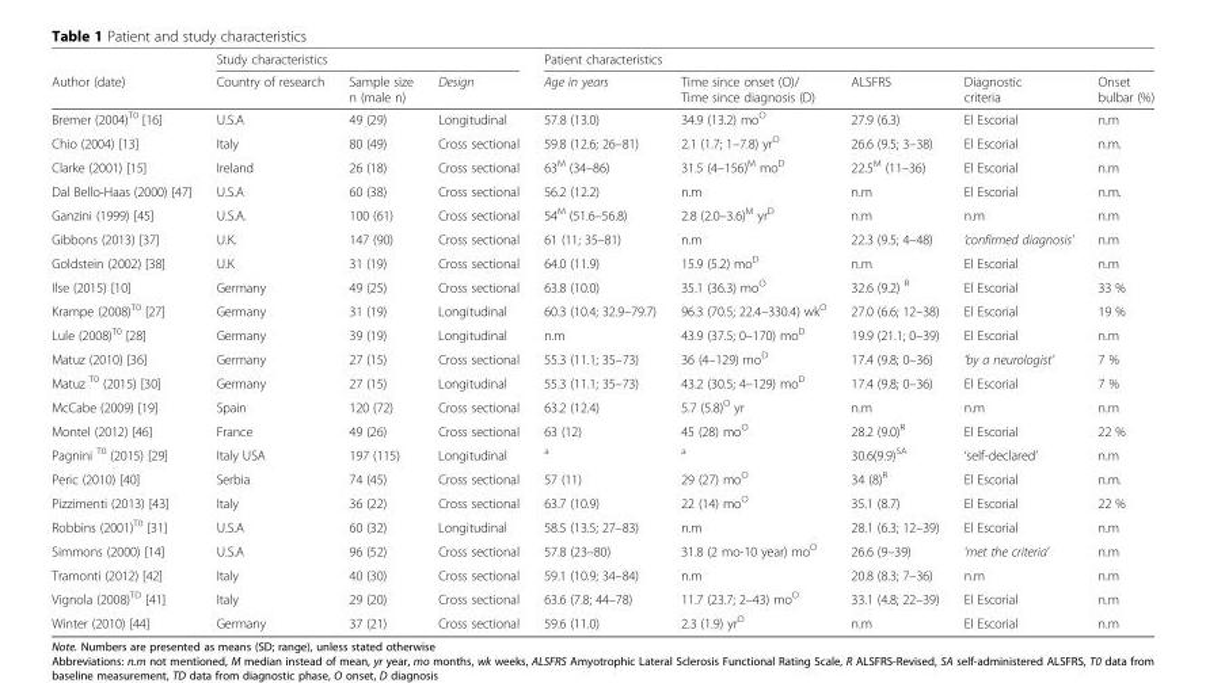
<table><thead><tr><td rowspan="2">Author (date)</td><td colspan="3">Study characteristics</td><td colspan="5">Patient characteristics</td></tr><tr><td>Country of research</td><td>Sample size n (male n)</td><td>Design</td><td>Age in years</td><td>Time since onset (O)/ Time since diagnosis (D)</td><td>ALSFRS</td><td>Diagnostic criteria</td><td>Onset bulbar (%)</td></tr></thead><tbody><tr><td>Bremer (2004)<sup>T0</sup> [16]</td><td>U.S.A</td><td>49 (29)</td><td>Longitudinal</td><td>57.8 (13.0)</td><td>34.9 (13.2) mo<sup>O</sup></td><td>27.9 (6.3)</td><td>El Escorial</td><td>n.m</td></tr><tr><td>Chio (2004) [13]</td><td>Italy</td><td>80 (49)</td><td>Cross sectional</td><td>59.8 (12.6; 26–81)</td><td>2.1 (1.7; 1–7.8) yr<sup>O</sup></td><td>26.6 (9.5; 3–38)</td><td>El Escorial</td><td>n.m.</td></tr><tr><td>Clarke (2001) [15]</td><td>Ireland</td><td>26 (18)</td><td>Cross sectional</td><td>63<sup>M</sup> (34–86)</td><td>31.5 (4–156)<sup>M</sup> mo<sup>D</sup></td><td>22.5<sup>M</sup> (11–36)</td><td>El Escorial</td><td>n.m</td></tr><tr><td>Dal Bello-Haas (2000) [47]</td><td>U.S.A</td><td>60 (38)</td><td>Cross sectional</td><td>56.2 (12.2)</td><td>n.m</td><td>n.m</td><td>El Escorial</td><td>n.m.</td></tr><tr><td>Ganzini (1999) [45]</td><td>U.S.A.</td><td>100 (61)</td><td>Cross sectional</td><td>54<sup>M</sup> (51.6–56.8)</td><td>2.8 (2.0–3.6)<sup>M</sup> yr<sup>D</sup></td><td>n.m</td><td>n.m</td><td>n.m</td></tr><tr><td>Gibbons (2013) [37]</td><td>U.K.</td><td>147 (90)</td><td>Cross sectional</td><td>61 (11; 35–81)</td><td>n.m</td><td>22.3 (9.5; 4–48)</td><td>‘confirmed diagnosis’</td><td>n.m</td></tr><tr><td>Goldstein (2002) [38]</td><td>U.K</td><td>31 (19)</td><td>Cross sectional</td><td>64.0 (11.9)</td><td>15.9 (5.2) mo<sup>D</sup></td><td>n.m</td><td>El Escorial</td><td>n.m</td></tr><tr><td>Ilse (2015) [10]</td><td>Germany</td><td>49 (25)</td><td>Cross sectional</td><td>63.8 (10.0)</td><td>35.1 (36.3) mo<sup>O</sup></td><td>32.6 (9.2) <sup>R</sup></td><td>El Escorial</td><td>33 %</td></tr><tr><td>Krampe (2008)<sup>T0</sup> [27]</td><td>Germany</td><td>31 (19)</td><td>Longitudinal</td><td>60.3 (10.4; 32.9–79.7)</td><td>96.3 (70.5; 22.4–330.4) wk<sup>O</sup></td><td>27.0 (6.6; 12–38)</td><td>El Escorial</td><td>19 %</td></tr><tr><td>Lule (2008)<sup>T0</sup> [28]</td><td>Germany</td><td>39 (19)</td><td>Longitudinal</td><td>n.m</td><td>43.9 (37.5; 0–170) mo<sup>D</sup></td><td>19.9 (21.1; 0–39)</td><td>El Escorial</td><td>n.m</td></tr><tr><td>Matuz (2010) [36]</td><td>Germany</td><td>27 (15)</td><td>Cross sectional</td><td>55.3 (11.1; 35–73)</td><td>36 (4–129) mo<sup>D</sup></td><td>17.4 (9.8; 0–36)</td><td>‘by a neurologist’</td><td>7 %</td></tr><tr><td>Matuz <sup>T0</sup> (2015) [30]</td><td>Germany</td><td>27 (15)</td><td>Longitudinal</td><td>55.3 (11.1; 35–73)</td><td>43.2 (30.5; 4–129) mo<sup>D</sup></td><td>17.4 (9.8; 0–36)</td><td>El Escorial</td><td>7 %</td></tr><tr><td>McCabe (2009) [19]</td><td>Spain</td><td>120 (72)</td><td>Cross sectional</td><td>63.2 (12.4)</td><td>5.7 (5.8)<sup>O</sup> yr</td><td>n.m</td><td>n.m</td><td>n.m</td></tr><tr><td>Montel (2012) [46]</td><td>France</td><td>49 (26)</td><td>Cross sectional</td><td>63 (12)</td><td>45 (28) mo<sup>O</sup></td><td>28.2 (9.0)<sup>R</sup></td><td>El Escorial</td><td>22 %</td></tr><tr><td>Pagnini <sup>T0</sup> (2015) [29]</td><td>Italy USA</td><td>197 (115)</td><td>Longitudinal</td><td><sup>a</sup></td><td><sup>a</sup></td><td>30.6(9.9)<sup>SA</sup></td><td>‘self-declared’</td><td>n.m</td></tr><tr><td>Peric (2010) [40]</td><td>Serbia</td><td>74 (45)</td><td>Cross sectional</td><td>57 (11)</td><td>29 (27) mo<sup>O</sup></td><td>34 (8)<sup>R</sup></td><td>El Escorial</td><td>n.m.</td></tr><tr><td>Pizzimenti (2013) [43]</td><td>Italy</td><td>36 (22)</td><td>Cross sectional</td><td>63.7 (10.9)</td><td>22 (14) mo<sup>O</sup></td><td>35.1 (8.7)</td><td>El Escorial</td><td>22 %</td></tr><tr><td>Robbins (2001)<sup>T0</sup> [31]</td><td>U.S.A</td><td>60 (32)</td><td>Longitudinal</td><td>58.5 (13.5; 27–83)</td><td>n.m</td><td>28.1 (6.3; 12–39)</td><td>El Escorial</td><td>n.m</td></tr><tr><td>Simmons (2000) [14]</td><td>U.S.A</td><td>96 (52)</td><td>Cross sectional</td><td>57.8 (23–80)</td><td>31.8 (2 mo-10 year) mo<sup>O</sup></td><td>26.6 (9–39)</td><td>‘met the criteria’</td><td>n.m</td></tr><tr><td>Tramonti (2012) [42]</td><td>Italy</td><td>40 (30)</td><td>Cross sectional</td><td>59.1 (10.9; 34–84)</td><td>n.m</td><td>20.8 (8.3; 7–36)</td><td>n.m</td><td>n.m</td></tr><tr><td>Vignola (2008)<sup>TD</sup> [41]</td><td>Italy</td><td>29 (20)</td><td>Cross sectional</td><td>63.6 (7.8; 44–78)</td><td>11.7 (23.7; 2–43) mo<sup>O</sup></td><td>33.1 (4.8; 22–39)</td><td>El Escorial</td><td>n.m</td></tr><tr><td>Winter (2010) [44]</td><td>Germany</td><td>37 (21)</td><td>Cross sectional</td><td>59.6 (11.0)</td><td>2.3 (1.9) yr<sup>O</sup></td><td>n.m</td><td>El Escorial</td><td>n.m</td></tr></tbody></table>